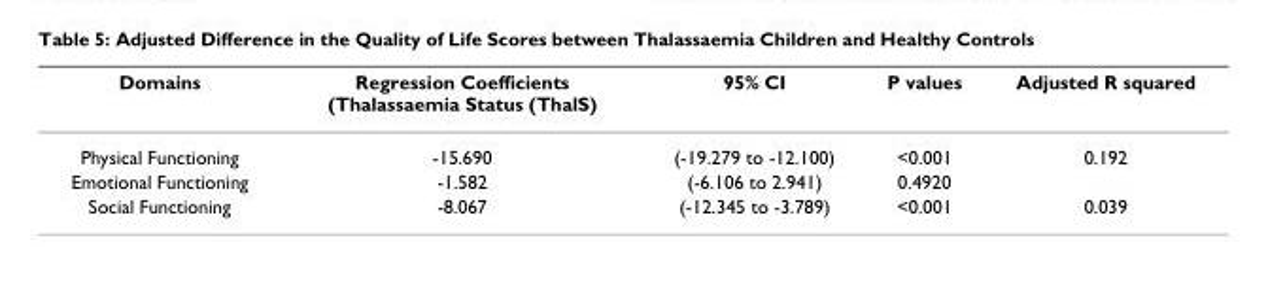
<table><thead><tr><td>Domains</td><td>Regression Coefficients (Thalassaemia Status (ThalS)</td><td>95% CI</td><td>P values</td><td>Adjusted R squared</td></tr></thead><tbody><tr><td>Physical Functioning</td><td>-15.690</td><td>(-19.279 to -12.100)</td><td>&lt;0.001</td><td>0.192</td></tr><tr><td>Emotional Functioning</td><td>-1.582</td><td>(-6.106 to 2.941)</td><td>0.4920</td><td></td></tr><tr><td>Social Functioning</td><td>-8.067</td><td>(-12.345 to -3.789)</td><td>&lt;0.001</td><td>0.039</td></tr></tbody></table>